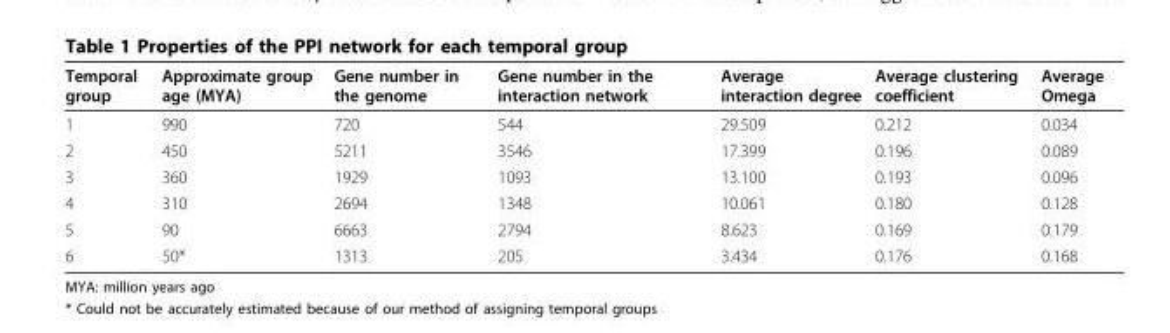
<table><thead><tr><td>Temporal group</td><td>Approximate group age (MYA)</td><td>Gene number in the genome</td><td>Gene number in the interaction network</td><td>Average interaction degree</td><td>Average clustering coefficient</td><td>Average Omega</td></tr></thead><tbody><tr><td>1</td><td>990</td><td>720</td><td>544</td><td>29.509</td><td>0.212</td><td>0.034</td></tr><tr><td>2</td><td>450</td><td>5211</td><td>3546</td><td>17.399</td><td>0.196</td><td>0.089</td></tr><tr><td>3</td><td>360</td><td>1929</td><td>1093</td><td>13.100</td><td>0.193</td><td>0.096</td></tr><tr><td>4</td><td>310</td><td>2694</td><td>1348</td><td>10.061</td><td>0.180</td><td>0.128</td></tr><tr><td>5</td><td>90</td><td>6663</td><td>2794</td><td>8.623</td><td>0.169</td><td>0.179</td></tr><tr><td>6</td><td>50*</td><td>1313</td><td>205</td><td>3.434</td><td>0.176</td><td>0.168</td></tr></tbody></table>